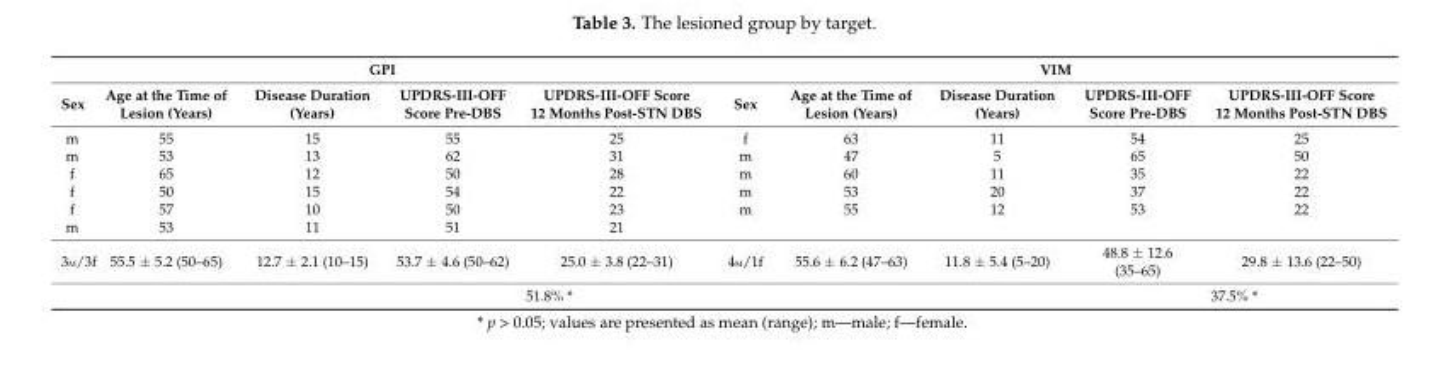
<table><thead><tr><td colspan="5">GPI</td><td colspan="5">VIM</td></tr><tr><td>Sex</td><td>Age at the Time of Lesion (Years)</td><td>Disease Duration (Years)</td><td>UPDRS-III-OFF Score Pre-DBS</td><td>UPDRS-III-OFF Score 12 Months Post-STN DBS</td><td>Sex</td><td>Age at the Time of Lesion (Years)</td><td>Disease Duration (Years)</td><td>UPDRS-III-OFF Score Pre-DBS</td><td>UPDRS-III-OFF Score 12 Months Post-STN DBS</td></tr></thead><tbody><tr><td>m</td><td>55</td><td>15</td><td>55</td><td>25</td><td>f</td><td>63</td><td>11</td><td>54</td><td>25</td></tr><tr><td>m</td><td>53</td><td>13</td><td>62</td><td>31</td><td>m</td><td>47</td><td>5</td><td>65</td><td>50</td></tr><tr><td>f</td><td>65</td><td>12</td><td>50</td><td>28</td><td>m</td><td>60</td><td>11</td><td>35</td><td>22</td></tr><tr><td>f</td><td>50</td><td>15</td><td>54</td><td>22</td><td>m</td><td>53</td><td>20</td><td>37</td><td>22</td></tr><tr><td>f</td><td>57</td><td>10</td><td>50</td><td>23</td><td>m</td><td>55</td><td>12</td><td>53</td><td>22</td></tr><tr><td>m</td><td>53</td><td>11</td><td>51</td><td>21</td><td></td><td></td><td></td><td></td><td></td></tr><tr><td rowspan="2">3м/3f</td><td>55.5 ± 5.2 (50–65)</td><td>12.7 ± 2.1 (10–15)</td><td>53.7 ± 4.6 (50–62)</td><td>25.0 ± 3.8 (22–31)</td><td>4м/1f</td><td>55.6 ± 6.2 (47–63)</td><td>11.8 ± 5.4 (5–20)</td><td>48.8 ± 12.6 (35–65)</td><td>29.8 ± 13.6 (22–50)</td></tr><tr><td></td><td></td><td colspan="2">51.8% *</td><td></td><td></td><td></td><td colspan="2">37.5% *</td></tr></tbody></table>